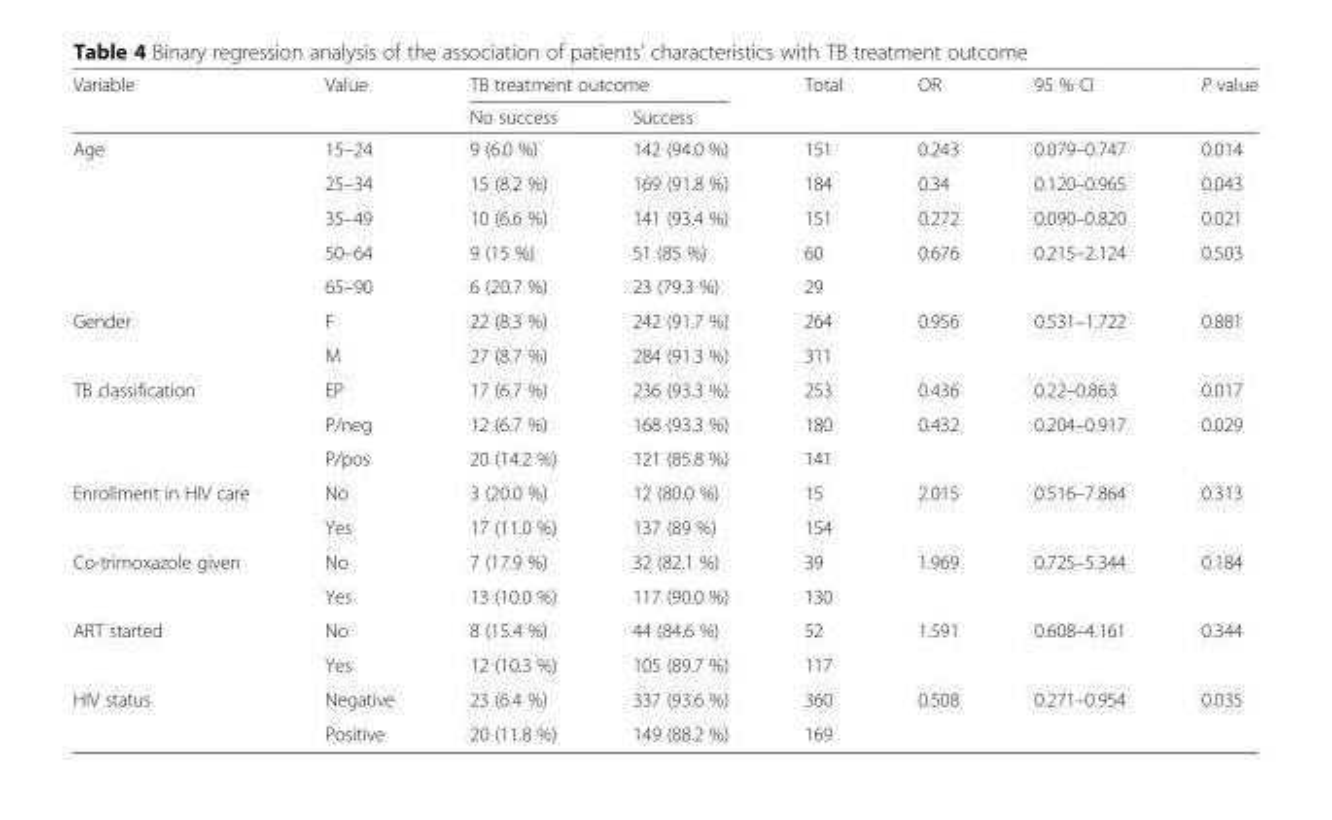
<table><thead><tr><td rowspan="2">Variable</td><td rowspan="2">Value</td><td colspan="2">TB treatment outcome</td><td rowspan="2">Total</td><td rowspan="2">OR</td><td rowspan="2">95 % CI</td><td rowspan="2">P value</td></tr><tr><td>No success</td><td>Success</td></tr></thead><tbody><tr><td rowspan="5">Age</td><td>15–24</td><td>9 (6.0 %)</td><td>142 (94.0 %)</td><td>151</td><td>0.243</td><td>0.079–0.747</td><td>0.014</td></tr><tr><td>25–34</td><td>15 (8.2 %)</td><td>169 (91.8 %)</td><td>184</td><td>0.34</td><td>0.120–0.965</td><td>0.043</td></tr><tr><td>35–49</td><td>10 (6.6 %)</td><td>141 (93.4 %)</td><td>151</td><td>0.272</td><td>0.090–0.820</td><td>0.021</td></tr><tr><td>50–64</td><td>9 (15 %)</td><td>51 (85 %)</td><td>60</td><td>0.676</td><td>0.215–2.124</td><td>0.503</td></tr><tr><td>65–90</td><td>6 (20.7 %)</td><td>23 (79.3 %)</td><td>29</td><td></td><td></td><td></td></tr><tr><td rowspan="2">Gender</td><td>F</td><td>22 (8.3 %)</td><td>242 (91.7 %)</td><td>264</td><td>0.956</td><td>0.531–1.722</td><td>0.881</td></tr><tr><td>M</td><td>27 (8.7 %)</td><td>284 (91.3 %)</td><td>311</td><td></td><td></td><td></td></tr><tr><td rowspan="3">TB classification</td><td>EP</td><td>17 (6.7 %)</td><td>236 (93.3 %)</td><td>253</td><td>0.436</td><td>0.22–0.863</td><td>0.017</td></tr><tr><td>P/neg</td><td>12 (6.7 %)</td><td>168 (93.3 %)</td><td>180</td><td>0.432</td><td>0.204–0.917</td><td>0.029</td></tr><tr><td>P/pos</td><td>20 (14.2 %)</td><td>121 (85.8 %)</td><td>141</td><td></td><td></td><td></td></tr><tr><td rowspan="2">Enrollment in HIV care</td><td>No</td><td>3 (20.0 %)</td><td>12 (80.0 %)</td><td>15</td><td>2.015</td><td>0.516–7.864</td><td>0.313</td></tr><tr><td>Yes</td><td>17 (11.0 %)</td><td>137 (89 %)</td><td>154</td><td></td><td></td><td></td></tr><tr><td rowspan="2">Co-trimoxazole given</td><td>No</td><td>7 (17.9 %)</td><td>32 (82.1 %)</td><td>39</td><td>1.969</td><td>0.725–5.344</td><td>0.184</td></tr><tr><td>Yes</td><td>13 (10.0 %)</td><td>117 (90.0 %)</td><td>130</td><td></td><td></td><td></td></tr><tr><td rowspan="2">ART started</td><td>No</td><td>8 (15.4 %)</td><td>44 (84.6 %)</td><td>52</td><td>1.591</td><td>0.608–4.161</td><td>0.344</td></tr><tr><td>Yes</td><td>12 (10.3 %)</td><td>105 (89.7 %)</td><td>117</td><td></td><td></td><td></td></tr><tr><td rowspan="2">HIV status</td><td>Negative</td><td>23 (6.4 %)</td><td>337 (93.6 %)</td><td>360</td><td>0.508</td><td>0.271–0.954</td><td>0.035</td></tr><tr><td>Positive</td><td>20 (11.8 %)</td><td>149 (88.2 %)</td><td>169</td><td></td><td></td><td></td></tr></tbody></table>